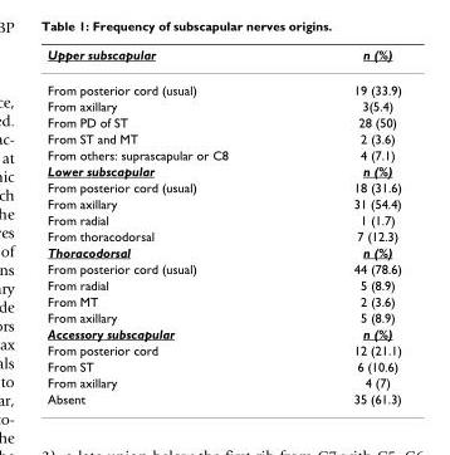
<table><thead><tr><td>Upper subscapular</td><td>n (%)</td></tr></thead><tbody><tr><td>From posterior cord (usual)</td><td>19 (33.9)</td></tr><tr><td>From axillary</td><td>3(5.4)</td></tr><tr><td>From PD of ST</td><td>28 (50)</td></tr><tr><td>From ST and MT</td><td>2 (3.6)</td></tr><tr><td>From others: suprascapular or C8</td><td>4 (7.1)</td></tr><tr><td>Lower subscapular</td><td>n (%)</td></tr><tr><td>From posterior cord (usual)</td><td>18 (31.6)</td></tr><tr><td>From axillary</td><td>31 (54.4)</td></tr><tr><td>From radial</td><td>1 (1.7)</td></tr><tr><td>From thoracodorsal</td><td>7 (12.3)</td></tr><tr><td>Thoracodorsal</td><td>n (%)</td></tr><tr><td>From posterior cord (usual)</td><td>44 (78.6)</td></tr><tr><td>From radial</td><td>5 (8.9)</td></tr><tr><td>From MT</td><td>2 (3.6)</td></tr><tr><td>From axillary</td><td>5 (8.9)</td></tr><tr><td>Accessory subscapular</td><td>n (%)</td></tr><tr><td>From posterior cord</td><td>12 (21.1)</td></tr><tr><td>From ST</td><td>6 (10.6)</td></tr><tr><td>From axillary</td><td>4 (7)</td></tr><tr><td>Absent</td><td>35 (61.3)</td></tr></tbody></table>